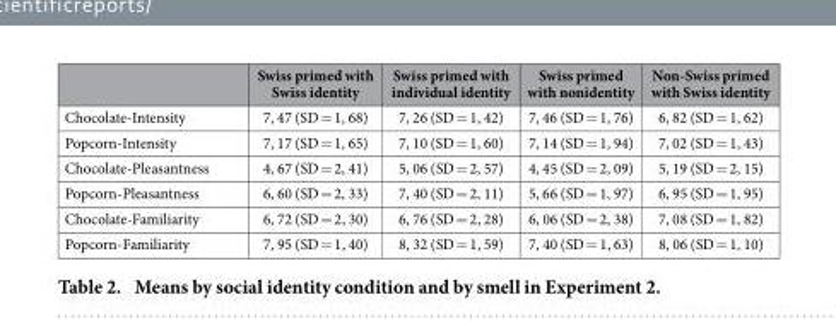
<table><thead><tr><td></td><td>Swiss primed with Swiss identity</td><td>Swiss primed with individual identity</td><td>Swiss primed with nonidentity</td><td>Non-Swiss primed with Swiss identity</td></tr></thead><tbody><tr><td>Chocolate-Intensity</td><td>7, 47 (SD = 1, 68)</td><td>7, 26 (SD = 1, 42)</td><td>7, 46 (SD = 1, 76)</td><td>6, 82 (SD = 1, 62)</td></tr><tr><td>Popcorn-Intensity</td><td>7, 17 (SD = 1, 65)</td><td>7, 10 (SD = 1, 60)</td><td>7, 14 (SD = 1, 94)</td><td>7, 02 (SD = 1, 43)</td></tr><tr><td>Chocolate-Pleasantness</td><td>4, 67 (SD = 2, 41)</td><td>5, 06 (SD = 2, 57)</td><td>4, 45 (SD = 2, 09)</td><td>5, 19 (SD = 2, 15)</td></tr><tr><td>Popcorn-Pleasantness</td><td>6, 60 (SD = 2, 33)</td><td>7, 40 (SD = 2, 11)</td><td>5, 66 (SD = 1, 97)</td><td>6, 95 (SD = 1, 95)</td></tr><tr><td>Chocolate-Familiarity</td><td>6, 72 (SD = 2, 30)</td><td>6, 76 (SD = 2, 28)</td><td>6, 06 (SD = 2, 38)</td><td>7, 08 (SD = 1, 82)</td></tr><tr><td>Popcorn-Familiarity</td><td>7, 95 (SD = 1, 40)</td><td>8, 32 (SD = 1, 59)</td><td>7, 40 (SD = 1, 63)</td><td>8, 06 (SD = 1, 10)</td></tr></tbody></table>